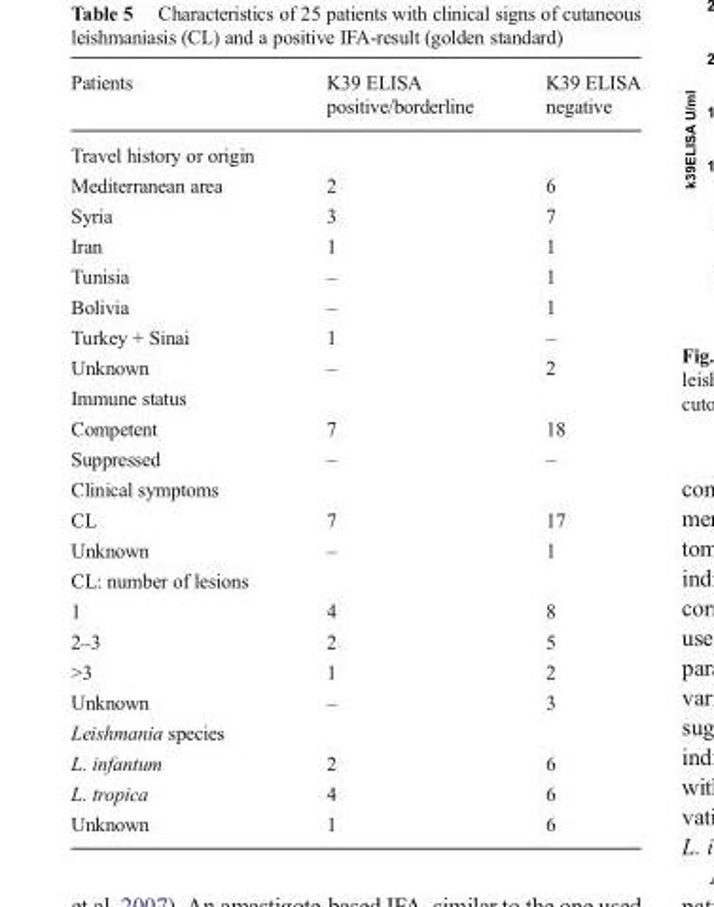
<table><thead><tr><td rowspan="2">Patients</td><td rowspan="2">K39 ELISA positive/borderline</td><td rowspan="2">K39 ELISA negative</td></tr><tr></tr></thead><tbody><tr><td colspan="3">Travel history or origin</td></tr><tr><td>Mediterranean area</td><td>2</td><td>6</td></tr><tr><td>Syria</td><td>3</td><td>7</td></tr><tr><td>Iran</td><td>1</td><td>1</td></tr><tr><td>Tunisia</td><td>–</td><td>1</td></tr><tr><td>Bolivia</td><td>–</td><td>1</td></tr><tr><td>Turkey + Sinai</td><td>1</td><td>–</td></tr><tr><td>Unknown</td><td>–</td><td>2</td></tr><tr><td colspan="3">Immune status</td></tr><tr><td>Competent</td><td>7</td><td>18</td></tr><tr><td>Suppressed</td><td>–</td><td>–</td></tr><tr><td colspan="3">Clinical symptoms</td></tr><tr><td>CL</td><td>7</td><td>17</td></tr><tr><td>Unknown</td><td>–</td><td>1</td></tr><tr><td colspan="3">CL: number of lesions</td></tr><tr><td>1</td><td>4</td><td>8</td></tr><tr><td>2–3</td><td>2</td><td>5</td></tr><tr><td>&gt;3</td><td>1</td><td>2</td></tr><tr><td>Unknown</td><td>–</td><td>3</td></tr><tr><td colspan="3">Leishmania species</td></tr><tr><td>L. infantum</td><td>2</td><td>6</td></tr><tr><td>L. tropica</td><td>4</td><td>6</td></tr><tr><td>Unknown</td><td>1</td><td>6</td></tr></tbody></table>